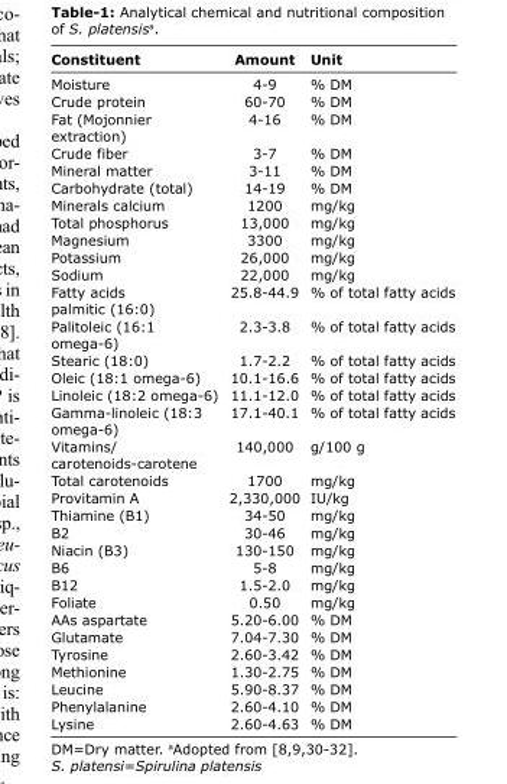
<table><thead><tr><td>Constituent</td><td>Amount</td><td>Unit</td></tr></thead><tbody><tr><td>Moisture</td><td>4-9</td><td>% DM</td></tr><tr><td>Crude protein</td><td>60-70</td><td>% DM</td></tr><tr><td>Fat (Mojonnier extraction)</td><td>4-16</td><td>% DM</td></tr><tr><td>Crude fiber</td><td>3-7</td><td>% DM</td></tr><tr><td>Mineral matter</td><td>3-11</td><td>% DM</td></tr><tr><td>Carbohydrate (total)</td><td>14-19</td><td>% DM</td></tr><tr><td>Minerals calcium</td><td>1200</td><td>mg/kg</td></tr><tr><td>Total phosphorus</td><td>13,000</td><td>mg/kg</td></tr><tr><td>Magnesium</td><td>3300</td><td>mg/kg</td></tr><tr><td>Potassium</td><td>26,000</td><td>mg/kg</td></tr><tr><td>Sodium</td><td>22,000</td><td>mg/kg</td></tr><tr><td>Fatty acids palmitic (16:0)</td><td>25.8-44.9</td><td>% of total fatty acids</td></tr><tr><td>Palitoleic (16:1 omega-6)</td><td>2.3-3.8</td><td>% of total fatty acids</td></tr><tr><td>Stearic (18:0)</td><td>1.7-2.2</td><td>% of total fatty acids</td></tr><tr><td>Oleic (18:1 omega-6)</td><td>10.1-16.6</td><td>% of total fatty acids</td></tr><tr><td>Linoleic (18:2 omega-6)</td><td>11.1-12.0</td><td>% of total fatty acids</td></tr><tr><td>Gamma-linoleic (18:3 omega-6)</td><td>17.1-40.1</td><td>% of total fatty acids</td></tr><tr><td>Vitamins/ carotenoids-carotene</td><td>140,000</td><td>g/100 g</td></tr><tr><td>Total carotenoids</td><td>1700</td><td>mg/kg</td></tr><tr><td>Provitamin A</td><td>2,330,000</td><td>IU/kg</td></tr><tr><td>Thiamine (B1)</td><td>34-50</td><td>mg/kg</td></tr><tr><td>B2</td><td>30-46</td><td>mg/kg</td></tr><tr><td>Niacin (B3)</td><td>130-150</td><td>mg/kg</td></tr><tr><td>B6</td><td>5-8</td><td>mg/kg</td></tr><tr><td>B12</td><td>1.5-2.0</td><td>mg/kg</td></tr><tr><td>Foliate</td><td>0.50</td><td>mg/kg</td></tr><tr><td>AAs aspartate</td><td>5.20-6.00</td><td>% DM</td></tr><tr><td>Glutamate</td><td>7.04-7.30</td><td>% DM</td></tr><tr><td>Tyrosine</td><td>2.60-3.42</td><td>% DM</td></tr><tr><td>Methionine</td><td>1.30-2.75</td><td>% DM</td></tr><tr><td>Leucine</td><td>5.90-8.37</td><td>% DM</td></tr><tr><td>Phenylalanine</td><td>2.60-4.10</td><td>% DM</td></tr><tr><td>Lysine</td><td>2.60-4.63</td><td>% DM</td></tr></tbody></table>